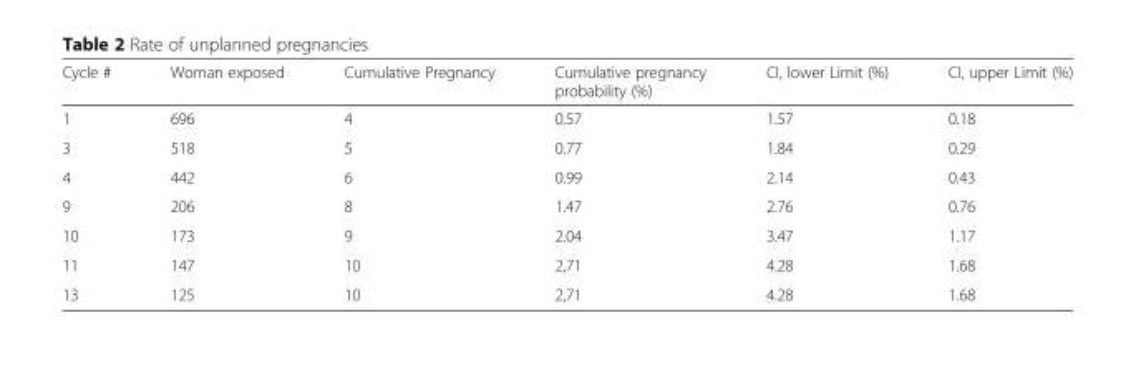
<table><thead><tr><td>Cycle #</td><td>Woman exposed</td><td>Cumulative Pregnancy</td><td>Cumulative pregnancy probability (%)</td><td>CI, lower Limit (%)</td><td>CI, upper Limit (%)</td></tr></thead><tbody><tr><td>1</td><td>696</td><td>4</td><td>0.57</td><td>1.57</td><td>0.18</td></tr><tr><td>3</td><td>518</td><td>5</td><td>0.77</td><td>1.84</td><td>0.29</td></tr><tr><td>4</td><td>442</td><td>6</td><td>0.99</td><td>2.14</td><td>0.43</td></tr><tr><td>9</td><td>206</td><td>8</td><td>1.47</td><td>2.76</td><td>0.76</td></tr><tr><td>10</td><td>173</td><td>9</td><td>2.04</td><td>3.47</td><td>1.17</td></tr><tr><td>11</td><td>147</td><td>10</td><td>2,71</td><td>4.28</td><td>1.68</td></tr><tr><td>13</td><td>125</td><td>10</td><td>2,71</td><td>4.28</td><td>1.68</td></tr></tbody></table>